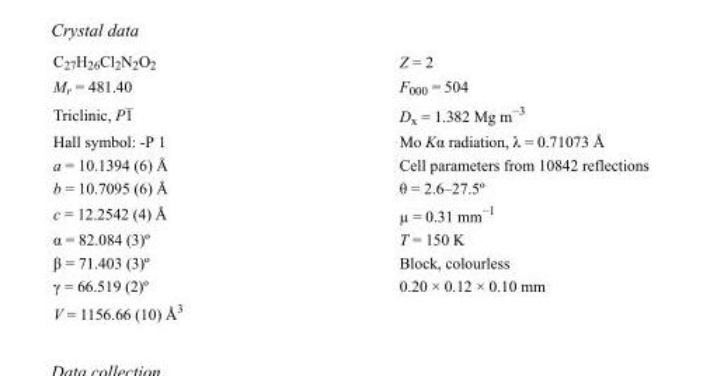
<table><tbody><tr><td>C<sub>27</sub>H<sub>26</sub>Cl<sub>2</sub>N<sub>2</sub>O<sub>2</sub></td><td>Z = 2</td></tr><tr><td>M<sub>r</sub> = 481.40</td><td>F000 = 504</td></tr><tr><td>Triclinic, P1</td><td>D<sub>x</sub> = 1.382 Mg m<sup>−3</sup></td></tr><tr><td>Hall symbol: -P 1</td><td>Mo Kα radiation, λ = 0.71073 Å</td></tr><tr><td>a = 10.1394 (6) Å</td><td>Cell parameters from 10842 reflections</td></tr><tr><td>b = 10.7095 (6) Å</td><td>θ = 2.6–27.5º</td></tr><tr><td>c = 12.2542 (4) Å</td><td>µ = 0.31 mm<sup>−1</sup></td></tr><tr><td>α = 82.084 (3)º</td><td>T = 150 K</td></tr><tr><td>β = 71.403 (3)º</td><td>Block, colourless</td></tr><tr><td>γ = 66.519 (2)º</td><td>0.20 × 0.12 × 0.10 mm</td></tr><tr><td>V = 1156.66 (10) Å<sup>3</sup></td><td></td></tr></tbody></table>